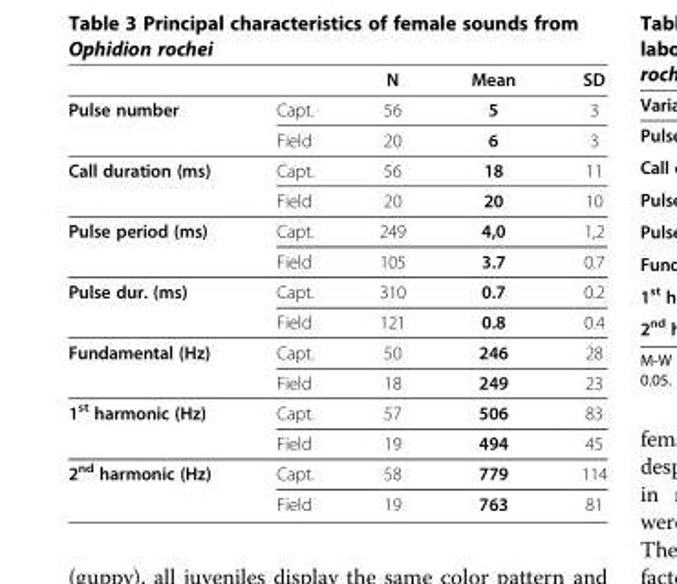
<table><thead><tr><td></td><td></td><td>N</td><td>Mean</td><td>SD</td></tr></thead><tbody><tr><td rowspan="2">Pulse number</td><td>Capt.</td><td>56</td><td>5</td><td>3</td></tr><tr><td>Field</td><td>20</td><td>6</td><td>3</td></tr><tr><td rowspan="2">Call duration (ms)</td><td>Capt.</td><td>56</td><td>18</td><td>11</td></tr><tr><td>Field</td><td>20</td><td>20</td><td>10</td></tr><tr><td rowspan="2">Pulse period (ms)</td><td>Capt.</td><td>249</td><td>4,0</td><td>1,2</td></tr><tr><td>Field</td><td>105</td><td>3.7</td><td>0.7</td></tr><tr><td rowspan="2">Pulse dur. (ms)</td><td>Capt.</td><td>310</td><td>0.7</td><td>0.2</td></tr><tr><td>Field</td><td>121</td><td>0.8</td><td>0.4</td></tr><tr><td rowspan="2">Fundamental (Hz)</td><td>Capt.</td><td>50</td><td>246</td><td>28</td></tr><tr><td>Field</td><td>18</td><td>249</td><td>23</td></tr><tr><td rowspan="2">1<sup>st</sup> harmonic (Hz)</td><td>Capt.</td><td>57</td><td>506</td><td>83</td></tr><tr><td>Field</td><td>19</td><td>494</td><td>45</td></tr><tr><td rowspan="2">2<sup>nd</sup> harmonic (Hz)</td><td>Capt.</td><td>58</td><td>779</td><td>114</td></tr><tr><td>Field</td><td>19</td><td>763</td><td>81</td></tr></tbody></table>